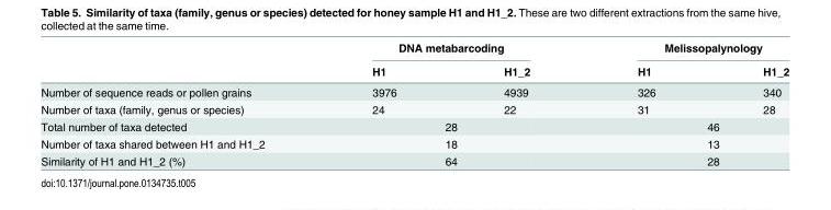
<table><thead><tr><td rowspan="2"></td><td colspan="2">DNA metabarcoding</td><td colspan="2">Melissopalynology</td></tr><tr><td>H1</td><td>H1_2</td><td>H1</td><td>H1_2</td></tr></thead><tbody><tr><td>Number of sequence reads or pollen grains</td><td>3976</td><td>4939</td><td>326</td><td>340</td></tr><tr><td>Number of taxa (family, genus or species)</td><td>24</td><td>22</td><td>31</td><td>28</td></tr><tr><td>Total number of taxa detected</td><td colspan="2">28</td><td colspan="2">46</td></tr><tr><td>Number of taxa shared between H1 and H1_2</td><td colspan="2">18</td><td colspan="2">13</td></tr><tr><td>Similarity of H1 and H1_2 (%)</td><td colspan="2">64</td><td colspan="2">28</td></tr></tbody></table>